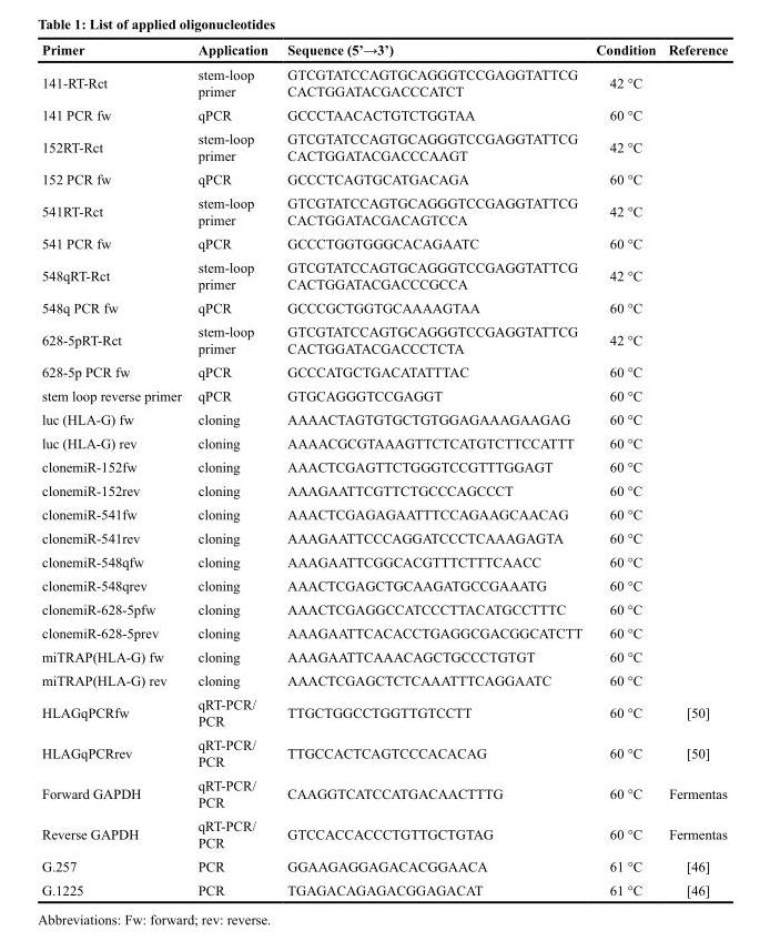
<table><thead><tr><td>Primer</td><td>Application</td><td>Sequence (5’→3’)</td><td>Condition</td><td>Reference</td></tr></thead><tbody><tr><td>141-RT-Rct</td><td>stem-loop primer</td><td>GTCGTATCCAGTGCAGGGTCCGAGGTATTCG CACTGGATACGACCCATCT</td><td>42 °C</td><td></td></tr><tr><td>141 PCR fw</td><td>qPCR</td><td>GCCCTAACACTGTCTGGTAA</td><td>60 °C</td><td></td></tr><tr><td>152RT-Rct</td><td>stem-loop primer</td><td>GTCGTATCCAGTGCAGGGTCCGAGGTATTCG CACTGGATACGACCCAAGT</td><td>42 °C</td><td></td></tr><tr><td>152 PCR fw</td><td>qPCR</td><td>GCCCTCAGTGCATGACAGA</td><td>60 °C</td><td></td></tr><tr><td>541RT-Rct</td><td>stem-loop primer</td><td>GTCGTATCCAGTGCAGGGTCCGAGGTATTCG CACTGGATACGACAGTCCA</td><td>42 °C</td><td></td></tr><tr><td>541 PCR fw</td><td>qPCR</td><td>GCCCTGGTGGGCACAGAATC</td><td>60 °C</td><td></td></tr><tr><td>548qRT-Rct</td><td>stem-loop primer</td><td>GTCGTATCCAGTGCAGGGTCCGAGGTATTCG CACTGGATACGACCCGCCA</td><td>42 °C</td><td></td></tr><tr><td>548q PCR fw</td><td>qPCR</td><td>GCCCGCTGGTGCAAAAGTAA</td><td>60 °C</td><td></td></tr><tr><td>628-5pRT-Rct</td><td>stem-loop primer</td><td>GTCGTATCCAGTGCAGGGTCCGAGGTATTCG CACTGGATACGACCCTCTA</td><td>42 °C</td><td></td></tr><tr><td>628-5p PCR fw</td><td>qPCR</td><td>GCCCATGCTGACATATTTAC</td><td>60 °C</td><td></td></tr><tr><td>stem loop reverse primer</td><td>qPCR</td><td>GTGCAGGGTCCGAGGT</td><td>60 °C</td><td></td></tr><tr><td>luc (HLA-G) fw</td><td>cloning</td><td>AAAACTAGTGTGCTGTGGAGAAAGAAGAG</td><td>60 °C</td><td></td></tr><tr><td>luc (HLA-G) rev</td><td>cloning</td><td>AAAACGCGTAAAGTTCTCATGTCTTCCATTT</td><td>60 °C</td><td></td></tr><tr><td>clonemiR-152fw</td><td>cloning</td><td>AAACTCGAGTTCTGGGTCCGTTTGGAGT</td><td>60 °C</td><td></td></tr><tr><td>clonemiR-152rev</td><td>cloning</td><td>AAAGAATTCGTTCTGCCCAGCCCT</td><td>60 °C</td><td></td></tr><tr><td>clonemiR-541fw</td><td>cloning</td><td>AAACTCGAGAGAATTTCCAGAAGCAACAG</td><td>60 °C</td><td></td></tr><tr><td>clonemiR-541rev</td><td>cloning</td><td>AAAGAATTCCCAGGATCCCTCAAAGAGTA</td><td>60 °C</td><td></td></tr><tr><td>clonemiR-548qfw</td><td>cloning</td><td>AAAGAATTCGGCACGTTTCTTTCAACC</td><td>60 °C</td><td></td></tr><tr><td>clonemiR-548qrev</td><td>cloning</td><td>AAACTCGAGCTGCAAGATGCCGAAATG</td><td>60 °C</td><td></td></tr><tr><td>clonemiR-628-5pfw</td><td>cloning</td><td>AAACTCGAGGCCATCCCTTACATGCCTTTC</td><td>60 °C</td><td></td></tr><tr><td>clonemiR-628-5prev</td><td>cloning</td><td>AAAGAATTCACACCTGAGGCGACGGCATCTT</td><td>60 °C</td><td></td></tr><tr><td>miTRAP(HLA-G) fw</td><td>cloning</td><td>AAAGAATTCAAACAGCTGCCCTGTGT</td><td>60 °C</td><td></td></tr><tr><td>miTRAP(HLA-G) rev</td><td>cloning</td><td>AAACTCGAGCTCTCAAATTTCAGGAATC</td><td>60 °C</td><td></td></tr><tr><td>HLAGqPCRfw</td><td>qRT-PCR/ PCR</td><td>TTGCTGGCCTGGTTGTCCTT</td><td>60 °C</td><td>[50]</td></tr><tr><td>HLAGqPCRrev</td><td>qRT-PCR/ PCR</td><td>TTGCCACTCAGTCCCACACAG</td><td>60 °C</td><td>[50]</td></tr><tr><td>Forward GAPDH</td><td>qRT-PCR/ PCR</td><td>CAAGGTCATCCATGACAACTTTG</td><td>60 °C</td><td>Fermentas</td></tr><tr><td>Reverse GAPDH</td><td>qRT-PCR/ PCR</td><td>GTCCACCACCCTGTTGCTGTAG</td><td>60 °C</td><td>Fermentas</td></tr><tr><td>G.257</td><td>PCR</td><td>GGAAGAGGAGACACGGAACA</td><td>61 °C</td><td>[46]</td></tr><tr><td>G.1225</td><td>PCR</td><td>TGAGACAGAGACGGAGACAT</td><td>61 °C</td><td>[46]</td></tr></tbody></table>